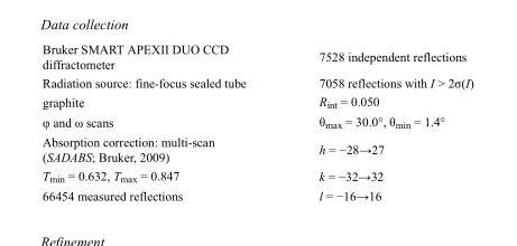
<table><tbody><tr><td>Bruker SMART APEXII DUO CCD diffractometer</td><td>7528 independent reflections</td></tr><tr><td>Radiation source: fine-focus sealed tube</td><td>7058 reflections with I &gt; 2σ(I)</td></tr><tr><td>graphite</td><td>R<sub>int</sub> = 0.050</td></tr><tr><td>φ and ω scans</td><td>θ<sub>max</sub> = 30.0°, θ<sub>min</sub> = 1.4°</td></tr><tr><td>Absorption correction: multi-scan (SADABS; Bruker, 2009)</td><td>h = −28→27</td></tr><tr><td>T<sub>min</sub> = 0.632, T<sub>max</sub> = 0.847</td><td>k = −32→32</td></tr><tr><td>66454 measured reflections</td><td>l = −16→16</td></tr></tbody></table>